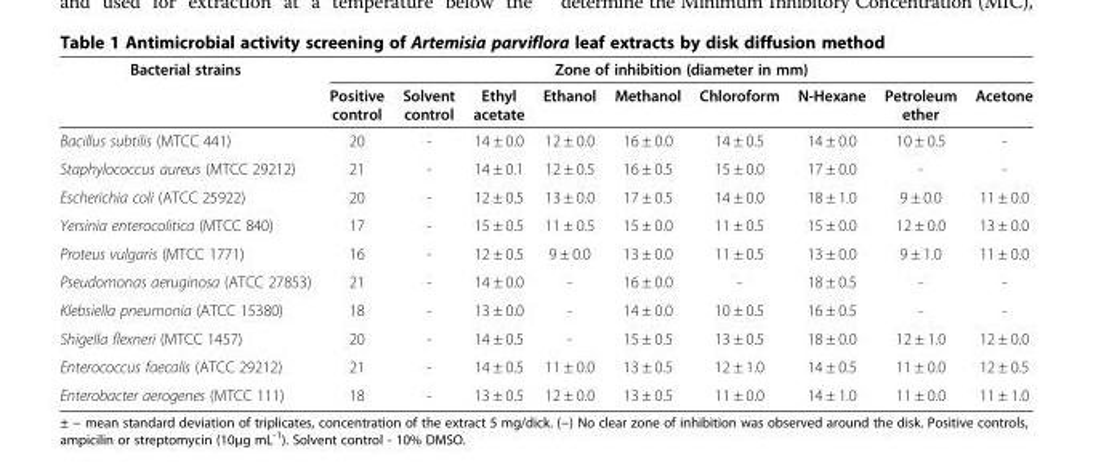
<table><thead><tr><td rowspan="2">Bacterial strains</td><td colspan="9">Zone of inhibition (diameter in mm)</td></tr><tr><td>Positive control</td><td>Solvent control</td><td>Ethyl acetate</td><td>Ethanol</td><td>Methanol</td><td>Chloroform</td><td>N-Hexane</td><td>Petroleum ether</td><td>Acetone</td></tr></thead><tbody><tr><td>Bacillus subtilis (MTCC 441)</td><td>20</td><td>-</td><td>14 ± 0.0</td><td>12 ± 0.0</td><td>16 ± 0.0</td><td>14 ± 0.5</td><td>14 ± 0.0</td><td>10 ± 0.5</td><td>-</td></tr><tr><td>Staphylococcus aureus (MTCC 29212)</td><td>21</td><td>-</td><td>14 ± 0.1</td><td>12 ± 0.5</td><td>16 ± 0.5</td><td>15 ± 0.0</td><td>17 ± 0.0</td><td>-</td><td>-</td></tr><tr><td>Escherichia coli (ATCC 25922)</td><td>20</td><td>-</td><td>12 ± 0.5</td><td>13 ± 0.0</td><td>17 ± 0.5</td><td>14 ± 0.0</td><td>18 ± 1.0</td><td>9 ± 0.0</td><td>11 ± 0.0</td></tr><tr><td>Yersinia enterocolitica (MTCC 840)</td><td>17</td><td>-</td><td>15 ± 0.5</td><td>11 ± 0.5</td><td>15 ± 0.0</td><td>11 ± 0.5</td><td>15 ± 0.0</td><td>12 ± 0.0</td><td>13 ± 0.0</td></tr><tr><td>Proteus vulgaris (MTCC 1771)</td><td>16</td><td>-</td><td>12 ± 0.5</td><td>9 ± 0.0</td><td>13 ± 0.0</td><td>11 ± 0.5</td><td>13 ± 0.0</td><td>9 ± 1.0</td><td>11 ± 0.0</td></tr><tr><td>Pseudomonas aeruginosa (ATCC 27853)</td><td>21</td><td>-</td><td>14 ± 0.0</td><td>-</td><td>16 ± 0.0</td><td>-</td><td>18 ± 0.5</td><td>-</td><td>-</td></tr><tr><td>Klebsiella pneumonia (ATCC 15380)</td><td>18</td><td>-</td><td>13 ± 0.0</td><td>-</td><td>14 ± 0.0</td><td>10 ± 0.5</td><td>16 ± 0.5</td><td>-</td><td>-</td></tr><tr><td>Shigella flexneri (MTCC 1457)</td><td>20</td><td>-</td><td>14 ± 0.5</td><td>-</td><td>15 ± 0.5</td><td>13 ± 0.5</td><td>18 ± 0.0</td><td>12 ± 1.0</td><td>12 ± 0.0</td></tr><tr><td>Enterococcus faecalis (ATCC 29212)</td><td>21</td><td>-</td><td>14 ± 0.5</td><td>11 ± 0.0</td><td>13 ± 0.5</td><td>12 ± 1.0</td><td>14 ± 0.5</td><td>11 ± 0.0</td><td>12 ± 0.5</td></tr><tr><td>Enterobacter aerogenes (MTCC 111)</td><td>18</td><td>-</td><td>13 ± 0.5</td><td>12 ± 0.0</td><td>13 ± 0.5</td><td>11 ± 0.0</td><td>14 ± 1.0</td><td>11 ± 0.0</td><td>11 ± 1.0</td></tr></tbody></table>